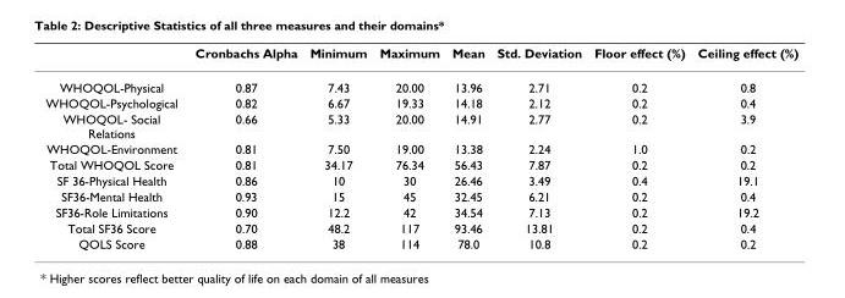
<table><thead><tr><td></td><td>Cronbachs Alpha</td><td>Minimum</td><td>Maximum</td><td>Mean</td><td>Std. Deviation</td><td>Floor effect (%)</td><td>Ceiling effect (%)</td></tr></thead><tbody><tr><td>WHOQOL-Physical</td><td>0.87</td><td>7.43</td><td>20.00</td><td>13.96</td><td>2.71</td><td>0.2</td><td>0.8</td></tr><tr><td>WHOQOL-Psychological</td><td>0.82</td><td>6.67</td><td>19.33</td><td>14.18</td><td>2.12</td><td>0.2</td><td>0.4</td></tr><tr><td>WHOQOL- Social Relations</td><td>0.66</td><td>5.33</td><td>20.00</td><td>14.91</td><td>2.77</td><td>0.2</td><td>3.9</td></tr><tr><td>WHOQOL-Environment</td><td>0.81</td><td>7.50</td><td>19.00</td><td>13.38</td><td>2.24</td><td>1.0</td><td>0.2</td></tr><tr><td>Total WHOQOL Score</td><td>0.81</td><td>34.17</td><td>76.34</td><td>56.43</td><td>7.87</td><td>0.2</td><td>0.2</td></tr><tr><td>SF 36-Physical Health</td><td>0.86</td><td>10</td><td>30</td><td>26.46</td><td>3.49</td><td>0.4</td><td>19.1</td></tr><tr><td>SF36-Mental Health</td><td>0.93</td><td>15</td><td>45</td><td>32.45</td><td>6.21</td><td>0.2</td><td>0.4</td></tr><tr><td>SF36-Role Limitations</td><td>0.90</td><td>12.2</td><td>42</td><td>34.54</td><td>7.13</td><td>0.2</td><td>19.2</td></tr><tr><td>Total SF36 Score</td><td>0.70</td><td>48.2</td><td>117</td><td>93.46</td><td>13.81</td><td>0.2</td><td>0.4</td></tr><tr><td>QOLS Score</td><td>0.88</td><td>38</td><td>114</td><td>78.0</td><td>10.8</td><td>0.2</td><td>0.2</td></tr></tbody></table>